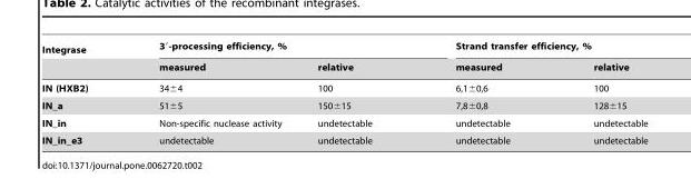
<table><thead><tr><td rowspan="2">Integrase</td><td colspan="2">3′-processing efficiency, %</td><td colspan="2">Strand transfer efficiency, %</td></tr><tr><td>measured</td><td>relative</td><td>measured</td><td>relative</td></tr></thead><tbody><tr><td>IN (HXB2)</td><td>34±4</td><td>100</td><td>6,1±0,6</td><td>100</td></tr><tr><td>IN_a</td><td>51±5</td><td>150±15</td><td>7,8±0,8</td><td>128±15</td></tr><tr><td>IN_in</td><td>Non-specific nuclease activity</td><td>undetectable</td><td>undetectable</td><td>undetectable</td></tr><tr><td>IN_in_e3</td><td>undetectable</td><td>undetectable</td><td>undetectable</td><td>undetectable</td></tr></tbody></table>